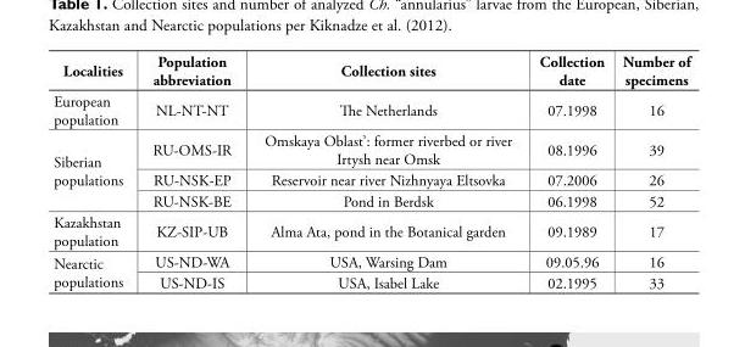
<table><thead><tr><td>Localities</td><td>Population abbreviation</td><td>Collection sites</td><td>Collection date</td><td>Number of specimens</td></tr></thead><tbody><tr><td>European population</td><td>NL-NT-NT</td><td>The Netherlands</td><td>07.1998</td><td>16</td></tr><tr><td rowspan="3">Siberian populations</td><td>RU-OMS-IR</td><td>Omskaya Oblast’: former riverbed or river Irtysh near Omsk</td><td>08.1996</td><td>39</td></tr><tr><td>RU-NSK-EP</td><td>Reservoir near river Nizhnyaya Eltsovka</td><td>07.2006</td><td>26</td></tr><tr><td>RU-NSK-BE</td><td>Pond in Berdsk</td><td>06.1998</td><td>52</td></tr><tr><td>Kazakhstan population</td><td>KZ-SIP-UB</td><td>Alma Ata, pond in the Botanical garden</td><td>09.1989</td><td>17</td></tr><tr><td rowspan="2">Nearctic populations</td><td>US-ND-WA</td><td>USA, Warsing Dam</td><td>09.05.96</td><td>16</td></tr><tr><td>US-ND-IS</td><td>USA, Isabel Lake</td><td>02.1995</td><td>33</td></tr></tbody></table>